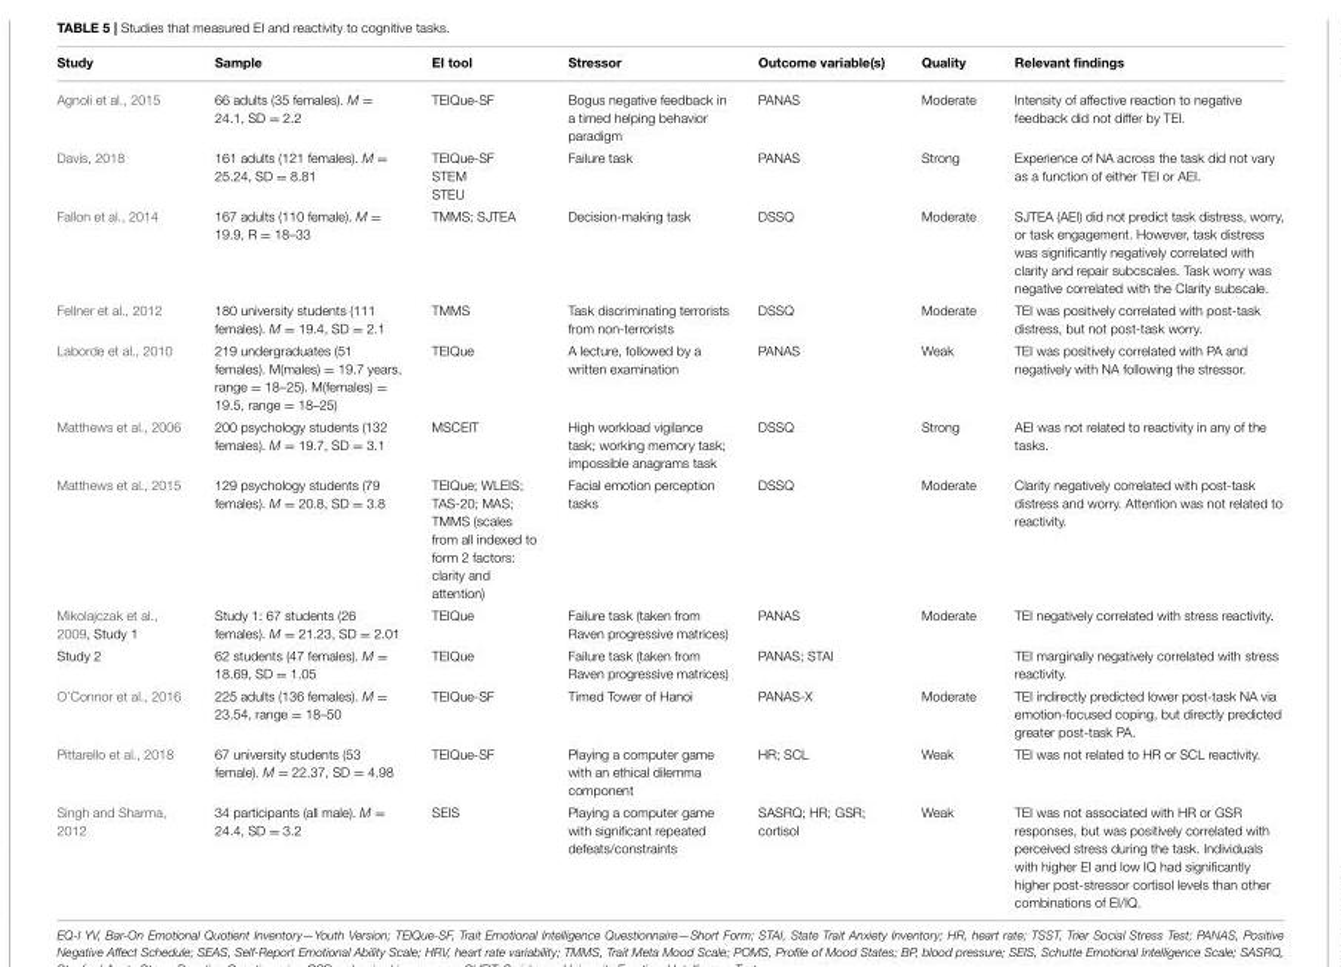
<table><thead><tr><td>Study</td><td>Sample</td><td>EI tool</td><td>Stressor</td><td>Outcome variable(s)</td><td>Quality</td><td>Relevant findings</td></tr></thead><tbody><tr><td>Agnoli et al., 2015</td><td>66 adults (35 females). M = 24.1, SD = 2.2</td><td>TEIQue-SF</td><td>Bogus negative feedback in a timed helping behavior paradigm</td><td>PANAS</td><td>Moderate</td><td>Intensity of affective reaction to negative feedback did not differ by TEI.</td></tr><tr><td>Davis, 2018</td><td>161 adults (121 females). M = 25.24, SD = 8.81</td><td>TEIQue-SF STEM STEU</td><td>Failure task</td><td>PANAS</td><td>Strong</td><td>Experience of NA across the task did not vary as a function of either TEI or AEI.</td></tr><tr><td>Fallon et al., 2014</td><td>167 adults (110 female). M = 19.9, R = 18–33</td><td>TMMS; SJTEA</td><td>Decision-making task</td><td>DSSQ</td><td>Moderate</td><td>SJTEA (AEI) did not predict task distress, worry, or task engagement. However, task distress was significantly negatively correlated with clarity and repair subcscales. Task worry was negative correlated with the Clarity subscale.</td></tr><tr><td>Fellner et al., 2012</td><td>180 university students (111 females). M = 19.4, SD = 2.1</td><td>TMMS</td><td>Task discriminating terrorists from non-terrorists</td><td>DSSQ</td><td>Moderate</td><td>TEI was positively correlated with post-task distress, but not post-task worry.</td></tr><tr><td>Laborde et al., 2010</td><td>219 undergraduates (51 females). M(males) = 19.7 years, range = 18–25). M(females) = 19.5, range = 18–25)</td><td>TEIQue</td><td>A lecture, followed by a written examination</td><td>PANAS</td><td>Weak</td><td>TEI was positively correlated with PA and negatively with NA following the stressor.</td></tr><tr><td>Matthews et al., 2006</td><td>200 psychology students (132 females). M = 19.7, SD = 3.1</td><td>MSCEIT</td><td>High workload vigilance task; working memory task; impossible anagrams task</td><td>DSSQ</td><td>Strong</td><td>AEI was not related to reactivity in any of the tasks.</td></tr><tr><td>Matthews et al., 2015</td><td>129 psychology students (79 females). M = 20.8, SD = 3.8</td><td>TEIQue; WLEIS; TAS-20; MAS; TMMS (scales from all indexed to form 2 factors: clarity and attention)</td><td>Facial emotion perception tasks</td><td>DSSQ</td><td>Moderate</td><td>Clarity negatively correlated with post-task distress and worry. Attention was not related to reactivity.</td></tr><tr><td>Mikolajczak et al., 2009, Study 1</td><td>Study 1: 67 students (26 females). M = 21.23, SD = 2.01</td><td>TEIQue</td><td>Failure task (taken from Raven progressive matrices)</td><td>PANAS</td><td>Moderate</td><td>TEI negatively correlated with stress reactivity.</td></tr><tr><td>Study 2</td><td>62 students (47 females). M = 18.69, SD = 1.05</td><td>TEIQue</td><td>Failure task (taken from Raven progressive matrices)</td><td>PANAS; STAI</td><td></td><td>TEI marginally negatively correlated with stress reactivity.</td></tr><tr><td>O’Connor et al., 2016</td><td>225 adults (136 females). M = 23.54, range = 18–50</td><td>TEIQue-SF</td><td>Timed Tower of Hanoi</td><td>PANAS-X</td><td>Moderate</td><td>TEI indirectly predicted lower post-task NA via emotion-focused coping, but directly predicted greater post-task PA.</td></tr><tr><td>Pittarello et al., 2018</td><td>67 university students (53 female). M = 22.37, SD = 4.98</td><td>TEIQue-SF</td><td>Playing a computer game with an ethical dilemma component</td><td>HR; SCL</td><td>Weak</td><td>TEI was not related to HR or SCL reactivity.</td></tr><tr><td>Singh and Sharma, 2012</td><td>34 participants (all male). M = 24.4, SD = 3.2</td><td>SEIS</td><td>Playing a computer game with significant repeated defeats/constraints</td><td>SASRQ; HR; GSR; cortisol</td><td>Weak</td><td>TEI was not associated with HR or GSR responses, but was positively correlated with perceived stress during the task. Individuals with higher EI and low IQ had significantly higher post-stressor cortisol levels than other combinations of EI/IQ.</td></tr></tbody></table>